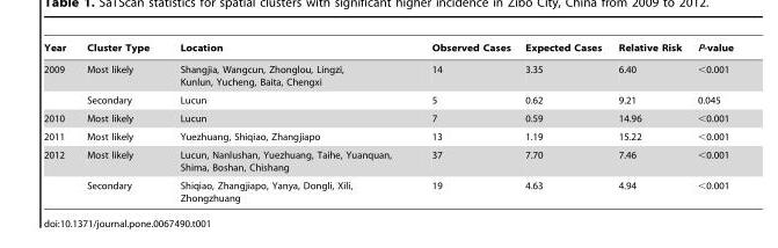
<table><thead><tr><td>Year</td><td>Cluster Type</td><td>Location</td><td>Observed Cases</td><td>Expected Cases</td><td>Relative Risk</td><td>P-value</td></tr></thead><tbody><tr><td rowspan="2">2009</td><td>Most likely</td><td>Shangjia, Wangcun, Zhonglou, Lingzi, Kunlun, Yucheng, Baita, Chengxi</td><td>14</td><td>3.35</td><td>6.40</td><td>&lt;0.001</td></tr><tr><td>Secondary</td><td>Lucun</td><td>5</td><td>0.62</td><td>9.21</td><td>0.045</td></tr><tr><td>2010</td><td>Most likely</td><td>Lucun</td><td>7</td><td>0.59</td><td>14.96</td><td>&lt;0.001</td></tr><tr><td>2011</td><td>Most likely</td><td>Yuezhuang, Shiqiao, Zhangjiapo</td><td>13</td><td>1.19</td><td>15.22</td><td>&lt;0.001</td></tr><tr><td rowspan="2">2012</td><td>Most likely</td><td>Lucun, Nanlushan, Yuezhuang, Taihe, Yuanquan, Shima, Boshan, Chishang</td><td>37</td><td>7.70</td><td>7.46</td><td>&lt;0.001</td></tr><tr><td>Secondary</td><td>Shiqiao, Zhangjiapo, Yanya, Dongli, Xili, Zhongzhuang</td><td>19</td><td>4.63</td><td>4.94</td><td>&lt;0.001</td></tr></tbody></table>